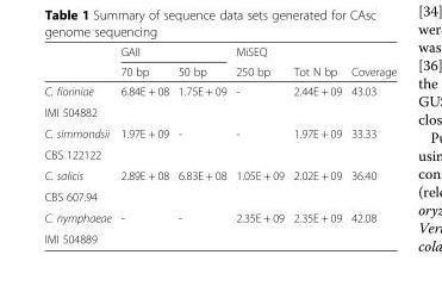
<table><thead><tr><td rowspan="2"></td><td colspan="2">GAII</td><td rowspan="2">MiSEQ 250 bp</td><td rowspan="2">Tot N bp</td><td rowspan="2">Coverage</td></tr><tr><td>70 bp</td><td>50 bp</td></tr></thead><tbody><tr><td>C. fioriniae</td><td rowspan="2">6.84E + 08</td><td rowspan="2">1.75E + 09</td><td rowspan="2">-</td><td rowspan="2">2.44E + 09</td><td rowspan="2">43.03</td></tr><tr><td>IMI 504882</td></tr><tr><td>C. simmondsii</td><td rowspan="2">1.97E + 09</td><td rowspan="2">-</td><td rowspan="2">-</td><td rowspan="2">1.97E + 09</td><td rowspan="2">33.33</td></tr><tr><td>CBS 122122</td></tr><tr><td>C. salicis</td><td rowspan="2">2.89E + 08</td><td rowspan="2">6.83E + 08</td><td rowspan="2">1.05E + 09</td><td rowspan="2">2.02E + 09</td><td rowspan="2">36.40</td></tr><tr><td>CBS 607.94</td></tr><tr><td>C. nymphaeae</td><td rowspan="2">-</td><td rowspan="2">-</td><td rowspan="2">2.35E + 09</td><td rowspan="2">2.35E + 09</td><td rowspan="2">42.08</td></tr><tr><td>IMI 504889</td></tr></tbody></table>